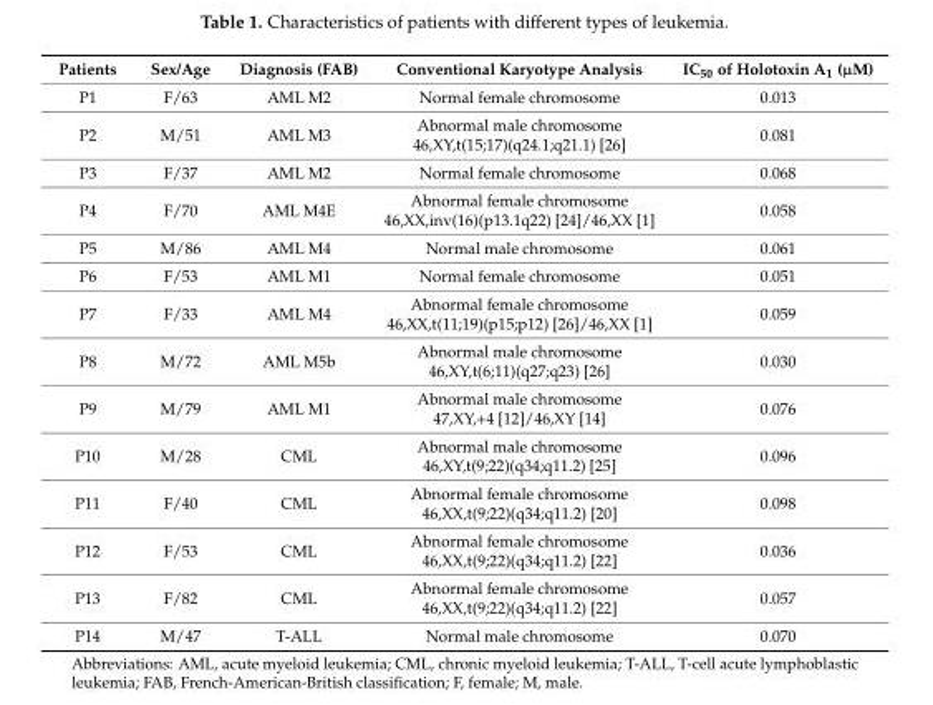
<table><thead><tr><td>Patients</td><td>Sex/Age</td><td>Diagnosis (FAB)</td><td>Conventional Karyotype Analysis</td><td>IC<sub>50</sub> of Holotoxin A<sub>1</sub> (µM)</td></tr></thead><tbody><tr><td>P1</td><td>F/63</td><td>AML M2</td><td>Normal female chromosome</td><td>0.013</td></tr><tr><td>P2</td><td>M/51</td><td>AML M3</td><td>Abnormal male chromosome 46,XY,t(15;17)(q24.1;q21.1) [26]</td><td>0.081</td></tr><tr><td>P3</td><td>F/37</td><td>AML M2</td><td>Normal female chromosome</td><td>0.068</td></tr><tr><td>P4</td><td>F/70</td><td>AML M4E</td><td>Abnormal female chromosome 46,XX,inv(16)(p13.1q22) [24]/46,XX [1]</td><td>0.058</td></tr><tr><td>P5</td><td>M/86</td><td>AML M4</td><td>Normal male chromosome</td><td>0.061</td></tr><tr><td>P6</td><td>F/53</td><td>AML M1</td><td>Normal female chromosome</td><td>0.051</td></tr><tr><td>P7</td><td>F/33</td><td>AML M4</td><td>Abnormal female chromosome 46,XX,t(11;19)(p15;p12) [26]/46,XX [1]</td><td>0.059</td></tr><tr><td>P8</td><td>M/72</td><td>AML M5b</td><td>Abnormal male chromosome 46,XY,t(6;11)(q27;q23) [26]</td><td>0.030</td></tr><tr><td>P9</td><td>M/79</td><td>AML M1</td><td>Abnormal male chromosome 47,XY,+4 [12]/46,XY [14]</td><td>0.076</td></tr><tr><td>P10</td><td>M/28</td><td>CML</td><td>Abnormal male chromosome 46,XY,t(9;22)(q34;q11.2) [25]</td><td>0.096</td></tr><tr><td>P11</td><td>F/40</td><td>CML</td><td>Abnormal female chromosome 46,XX,t(9;22)(q34;q11.2) [20]</td><td>0.098</td></tr><tr><td>P12</td><td>F/53</td><td>CML</td><td>Abnormal female chromosome 46,XX,t(9;22)(q34;q11.2) [22]</td><td>0.036</td></tr><tr><td>P13</td><td>F/82</td><td>CML</td><td>Abnormal female chromosome 46,XX,t(9;22)(q34;q11.2) [22]</td><td>0.057</td></tr><tr><td>P14</td><td>M/47</td><td>T-ALL</td><td>Normal male chromosome</td><td>0.070</td></tr></tbody></table>